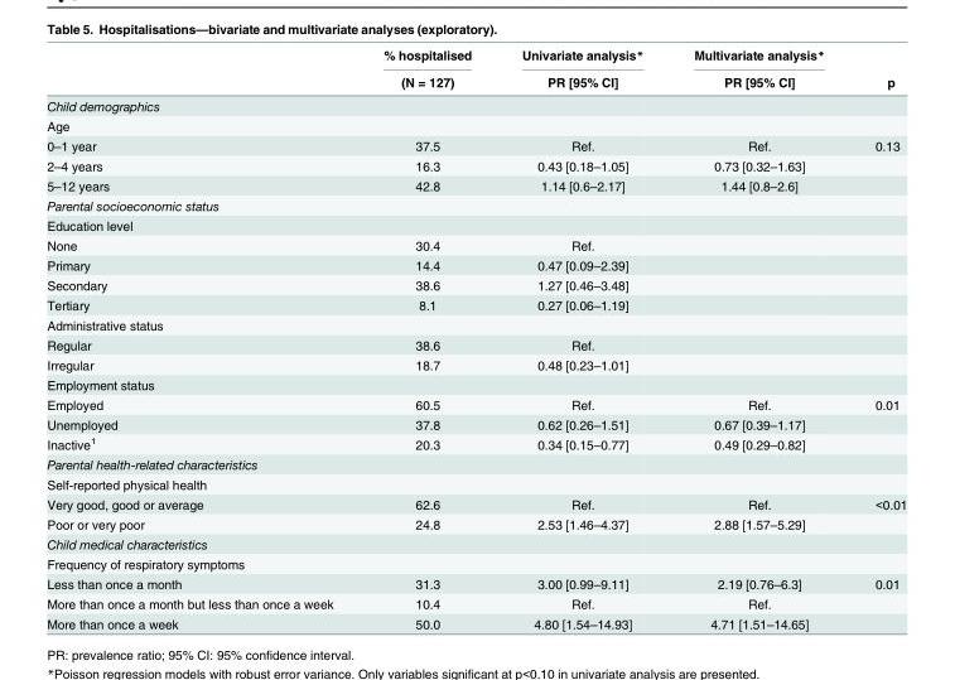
<table><thead><tr><td rowspan="2"></td><td rowspan="2">% hospitalised (N = 127)</td><td rowspan="2">Univariate analysis* PR [95% CI]</td><td rowspan="2">Multivariate analysis* PR [95% CI]</td><td rowspan="2">p</td></tr><tr></tr></thead><tbody><tr><td colspan="5">Child demographics</td></tr><tr><td colspan="5">Age</td></tr><tr><td>0–1 year</td><td>37.5</td><td>Ref.</td><td>Ref.</td><td>0.13</td></tr><tr><td>2–4 years</td><td>16.3</td><td>0.43 [0.18–1.05]</td><td>0.73 [0.32–1.63]</td><td></td></tr><tr><td>5–12 years</td><td>42.8</td><td>1.14 [0.6–2.17]</td><td>1.44 [0.8–2.6]</td><td></td></tr><tr><td colspan="5">Parental socioeconomic status</td></tr><tr><td colspan="5">Education level</td></tr><tr><td>None</td><td>30.4</td><td>Ref.</td><td></td><td></td></tr><tr><td>Primary</td><td>14.4</td><td>0.47 [0.09–2.39]</td><td></td><td></td></tr><tr><td>Secondary</td><td>38.6</td><td>1.27 [0.46–3.48]</td><td></td><td></td></tr><tr><td>Tertiary</td><td>8.1</td><td>0.27 [0.06–1.19]</td><td></td><td></td></tr><tr><td colspan="5">Administrative status</td></tr><tr><td>Regular</td><td>38.6</td><td>Ref.</td><td></td><td></td></tr><tr><td>Irregular</td><td>18.7</td><td>0.48 [0.23–1.01]</td><td></td><td></td></tr><tr><td colspan="5">Employment status</td></tr><tr><td>Employed</td><td>60.5</td><td>Ref.</td><td>Ref.</td><td>0.01</td></tr><tr><td>Unemployed</td><td>37.8</td><td>0.62 [0.26–1.51]</td><td>0.67 [0.39–1.17]</td><td></td></tr><tr><td>Inactive<sup>1</sup></td><td>20.3</td><td>0.34 [0.15–0.77]</td><td>0.49 [0.29–0.82]</td><td></td></tr><tr><td colspan="5">Parental health-related characteristics</td></tr><tr><td colspan="5">Self-reported physical health</td></tr><tr><td>Very good, good or average</td><td>62.6</td><td>Ref.</td><td>Ref.</td><td>&lt;0.01</td></tr><tr><td>Poor or very poor</td><td>24.8</td><td>2.53 [1.46–4.37]</td><td>2.88 [1.57–5.29]</td><td></td></tr><tr><td colspan="5">Child medical characteristics</td></tr><tr><td colspan="5">Frequency of respiratory symptoms</td></tr><tr><td>Less than once a month</td><td>31.3</td><td>3.00 [0.99–9.11]</td><td>2.19 [0.76–6.3]</td><td>0.01</td></tr><tr><td>More than once a month but less than once a week</td><td>10.4</td><td>Ref.</td><td>Ref.</td><td></td></tr><tr><td>More than once a week</td><td>50.0</td><td>4.80 [1.54–14.93]</td><td>4.71 [1.51–14.65]</td><td></td></tr></tbody></table>